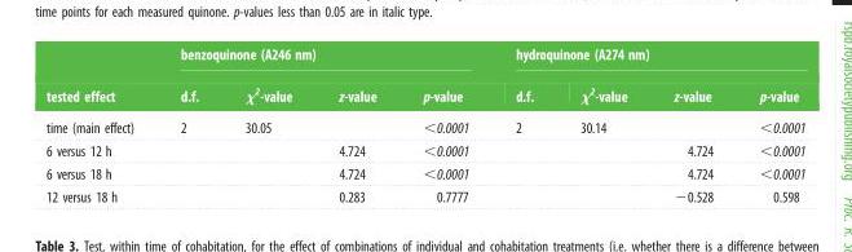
<table><thead><tr><td rowspan="2">tested effect</td><td colspan="4">benzoquinone (A246 nm)</td><td colspan="4">hydroquinone (A274 nm)</td></tr><tr><td>d.f.</td><td>χ<sup>2</sup>-value</td><td>z-value</td><td>p-value</td><td>d.f.</td><td>χ<sup>2</sup>-value</td><td>z-value</td><td>p-value</td></tr></thead><tbody><tr><td>time (main effect)</td><td>2</td><td>30.05</td><td></td><td>&lt;0.0001</td><td>2</td><td>30.14</td><td></td><td>&lt;0.0001</td></tr><tr><td>6 versus 12 h</td><td></td><td></td><td>4.724</td><td>&lt;0.0001</td><td></td><td></td><td>4.724</td><td>&lt;0.0001</td></tr><tr><td>6 versus 18 h</td><td></td><td></td><td>4.724</td><td>&lt;0.0001</td><td></td><td></td><td>4.724</td><td>&lt;0.0001</td></tr><tr><td>12 versus 18 h</td><td></td><td></td><td>0.283</td><td>0.7777</td><td></td><td></td><td>−0.528</td><td>0.598</td></tr></tbody></table>